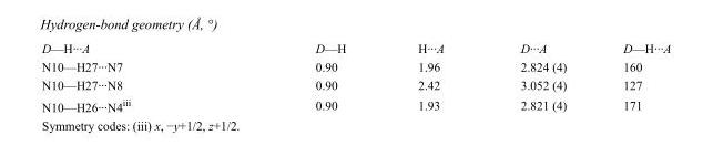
<table><tbody><tr><td>D—H···A</td><td>D—H</td><td>H···A</td><td>D···A</td><td>D—H···A</td></tr><tr><td>N10—H27···N7</td><td>0.90</td><td>1.96</td><td>2.824 (4)</td><td>160</td></tr><tr><td>N10—H27···N8</td><td>0.90</td><td>2.42</td><td>3.052 (4)</td><td>127</td></tr><tr><td>N10—H26···N4<sup>iii</sup></td><td>0.90</td><td>1.93</td><td>2.821 (4)</td><td>171</td></tr></tbody></table>